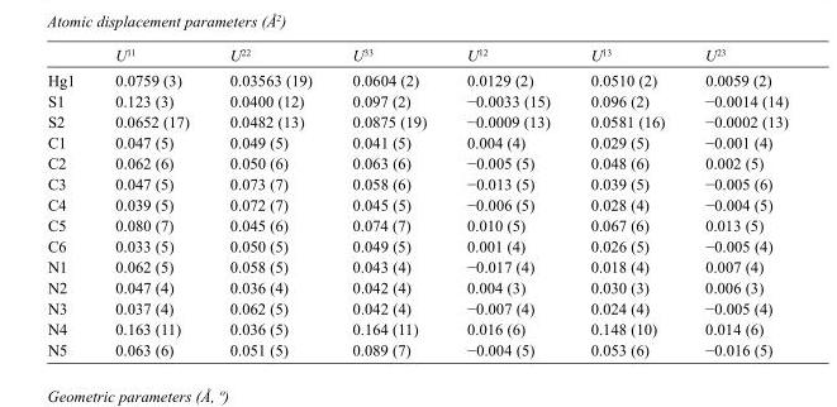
<table><thead><tr><td></td><td>U<sup>11</sup></td><td>U<sup>22</sup></td><td>U<sup>33</sup></td><td>U<sup>12</sup></td><td>U<sup>13</sup></td><td>U<sup>23</sup></td></tr></thead><tbody><tr><td>Hg1</td><td>0.0759 (3)</td><td>0.03563 (19)</td><td>0.0604 (2)</td><td>0.0129 (2)</td><td>0.0510 (2)</td><td>0.0059 (2)</td></tr><tr><td>S1</td><td>0.123 (3)</td><td>0.0400 (12)</td><td>0.097 (2)</td><td>−0.0033 (15)</td><td>0.096 (2)</td><td>−0.0014 (14)</td></tr><tr><td>S2</td><td>0.0652 (17)</td><td>0.0482 (13)</td><td>0.0875 (19)</td><td>−0.0009 (13)</td><td>0.0581 (16)</td><td>−0.0002 (13)</td></tr><tr><td>C1</td><td>0.047 (5)</td><td>0.049 (5)</td><td>0.041 (5)</td><td>0.004 (4)</td><td>0.029 (5)</td><td>−0.001 (4)</td></tr><tr><td>C2</td><td>0.062 (6)</td><td>0.050 (6)</td><td>0.063 (6)</td><td>−0.005 (5)</td><td>0.048 (6)</td><td>0.002 (5)</td></tr><tr><td>C3</td><td>0.047 (5)</td><td>0.073 (7)</td><td>0.058 (6)</td><td>−0.013 (5)</td><td>0.039 (5)</td><td>−0.005 (6)</td></tr><tr><td>C4</td><td>0.039 (5)</td><td>0.072 (7)</td><td>0.045 (5)</td><td>−0.006 (5)</td><td>0.028 (4)</td><td>−0.004 (5)</td></tr><tr><td>C5</td><td>0.080 (7)</td><td>0.045 (6)</td><td>0.074 (7)</td><td>0.010 (5)</td><td>0.067 (6)</td><td>0.013 (5)</td></tr><tr><td>C6</td><td>0.033 (5)</td><td>0.050 (5)</td><td>0.049 (5)</td><td>0.001 (4)</td><td>0.026 (5)</td><td>−0.005 (4)</td></tr><tr><td>N1</td><td>0.062 (5)</td><td>0.058 (5)</td><td>0.043 (4)</td><td>−0.017 (4)</td><td>0.018 (4)</td><td>0.007 (4)</td></tr><tr><td>N2</td><td>0.047 (4)</td><td>0.036 (4)</td><td>0.042 (4)</td><td>0.004 (3)</td><td>0.030 (3)</td><td>0.006 (3)</td></tr><tr><td>N3</td><td>0.037 (4)</td><td>0.062 (5)</td><td>0.042 (4)</td><td>−0.007 (4)</td><td>0.024 (4)</td><td>−0.005 (4)</td></tr><tr><td>N4</td><td>0.163 (11)</td><td>0.036 (5)</td><td>0.164 (11)</td><td>0.016 (6)</td><td>0.148 (10)</td><td>0.014 (6)</td></tr><tr><td>N5</td><td>0.063 (6)</td><td>0.051 (5)</td><td>0.089 (7)</td><td>−0.004 (5)</td><td>0.053 (6)</td><td>−0.016 (5)</td></tr></tbody></table>